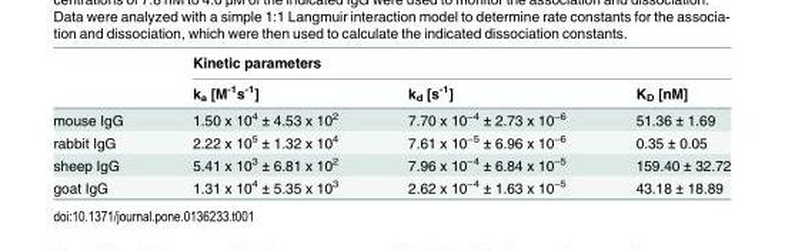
<table><thead><tr><td rowspan="2"></td><td colspan="3">Kinetic parameters</td></tr><tr><td>k<sub>a</sub> [M<sup>-1</sup>s<sup>-1</sup>]</td><td>k<sub>d</sub> [s<sup>-1</sup>]</td><td>K<sub>D</sub> [nM]</td></tr></thead><tbody><tr><td>mouse IgG</td><td>1.50 x 10<sup>4</sup> ± 4.53 x 10<sup>2</sup></td><td>7.70 x 10<sup>−4</sup> ± 2.73 x 10<sup>−6</sup></td><td>51.36 ± 1.69</td></tr><tr><td>rabbit IgG</td><td>2.22 x 10<sup>5</sup> ± 1.32 x 10<sup>4</sup></td><td>7.61 x 10<sup>−5</sup> ± 6.96 x 10<sup>−6</sup></td><td>0.35 ± 0.05</td></tr><tr><td>sheep IgG</td><td>5.41 x 10<sup>3</sup> ± 6.81 x 10<sup>2</sup></td><td>7.96 x 10<sup>−4</sup> ± 6.84 x 10<sup>−5</sup></td><td>159.40 ± 32.72</td></tr><tr><td>goat IgG</td><td>1.31 x 10<sup>4</sup> ± 5.35 x 10<sup>3</sup></td><td>2.62 x 10<sup>−4</sup> ± 1.63 x 10<sup>−5</sup></td><td>43.18 ± 18.89</td></tr></tbody></table>